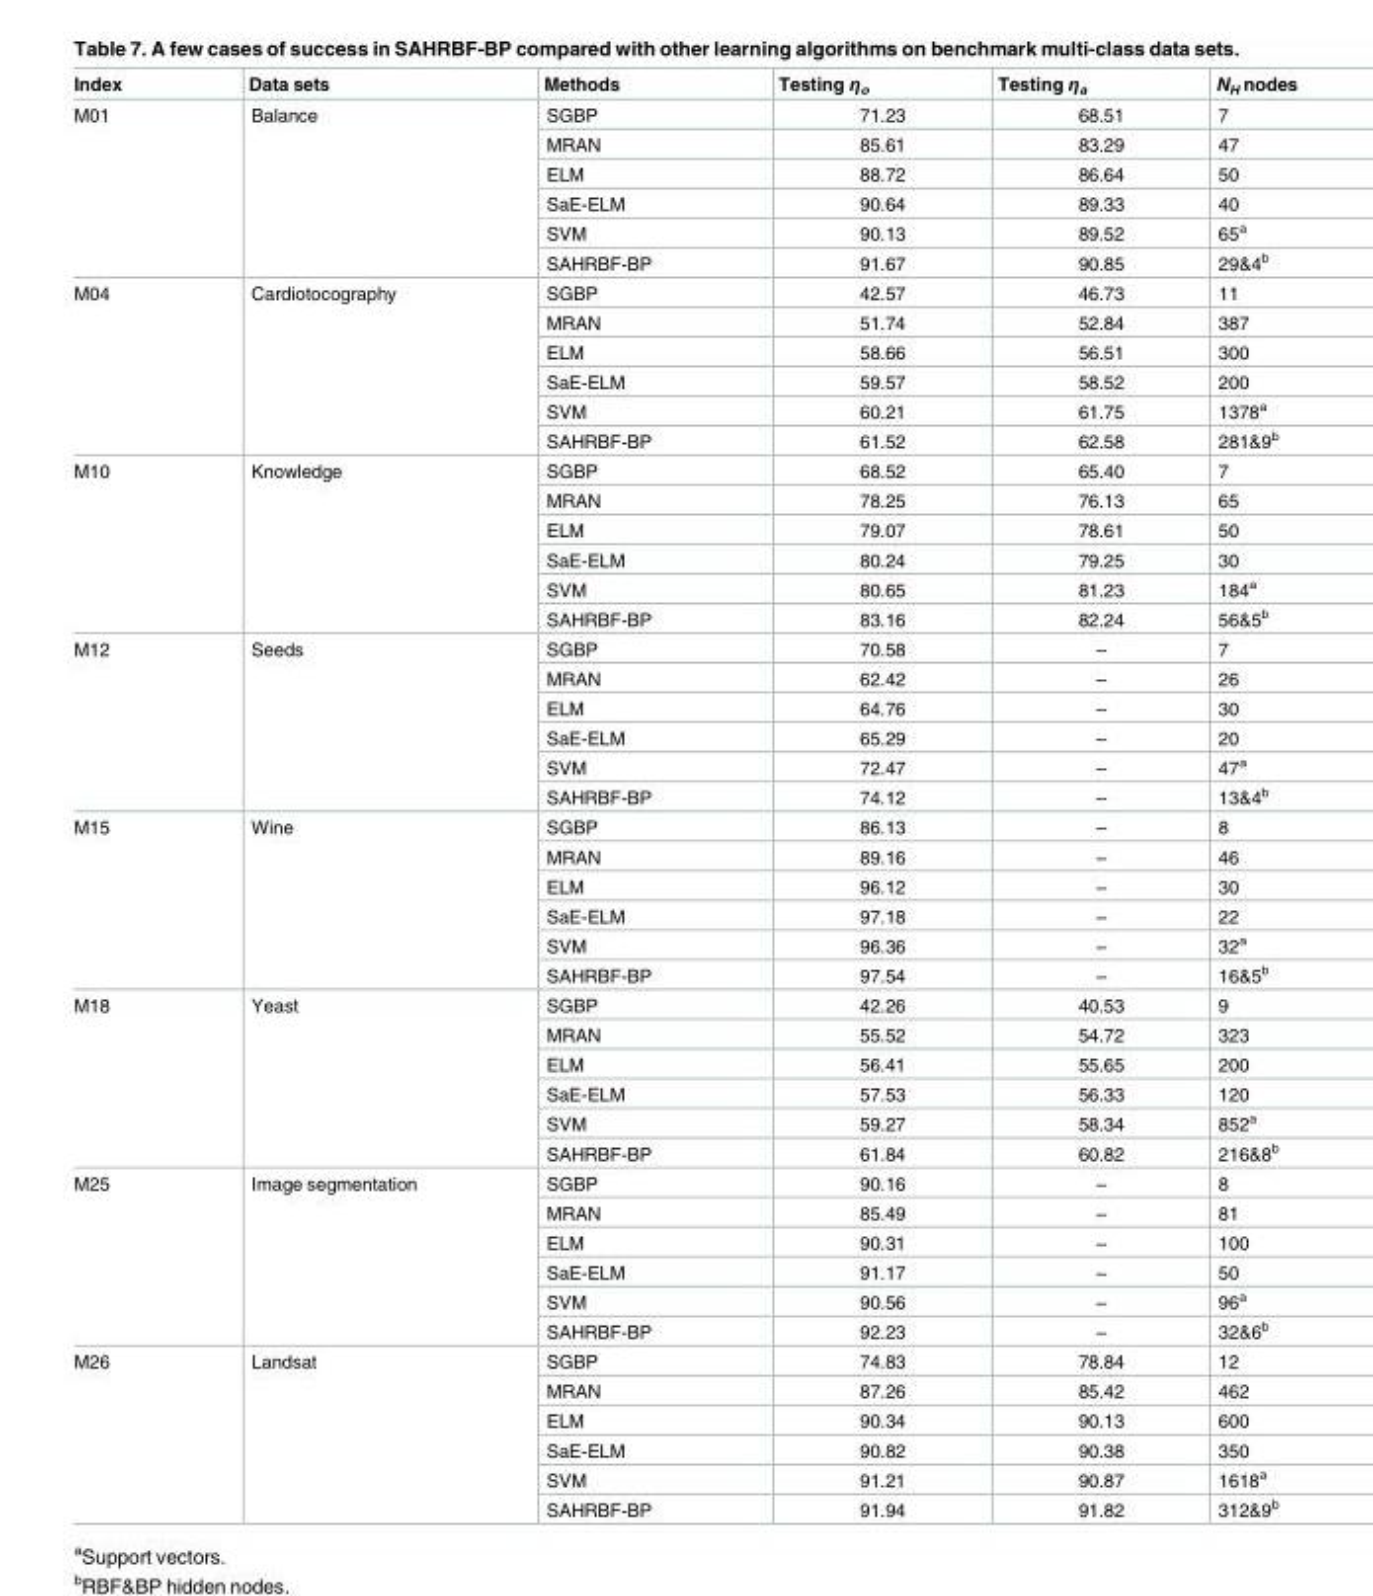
<table><thead><tr><td>Index</td><td>Data sets</td><td>Methods</td><td>Testing η<sub>o</sub></td><td>Testing η<sub>a</sub></td><td>N<sub>H</sub> nodes</td></tr></thead><tbody><tr><td rowspan="6">M01</td><td rowspan="6">Balance</td><td>SGBP</td><td>71.23</td><td>68.51</td><td>7</td></tr><tr><td>MRAN</td><td>85.61</td><td>83.29</td><td>47</td></tr><tr><td>ELM</td><td>88.72</td><td>86.64</td><td>50</td></tr><tr><td>SaE-ELM</td><td>90.64</td><td>89.33</td><td>40</td></tr><tr><td>SVM</td><td>90.13</td><td>89.52</td><td>65<sup>a</sup></td></tr><tr><td>SAHRBF-BP</td><td>91.67</td><td>90.85</td><td>29&amp;4<sup>b</sup></td></tr><tr><td rowspan="6">M04</td><td rowspan="6">Cardiotocography</td><td>SGBP</td><td>42.57</td><td>46.73</td><td>11</td></tr><tr><td>MRAN</td><td>51.74</td><td>52.84</td><td>387</td></tr><tr><td>ELM</td><td>58.66</td><td>56.51</td><td>300</td></tr><tr><td>SaE-ELM</td><td>59.57</td><td>58.52</td><td>200</td></tr><tr><td>SVM</td><td>60.21</td><td>61.75</td><td>1378<sup>a</sup></td></tr><tr><td>SAHRBF-BP</td><td>61.52</td><td>62.58</td><td>281&amp;9<sup>b</sup></td></tr><tr><td rowspan="6">M10</td><td rowspan="6">Knowledge</td><td>SGBP</td><td>68.52</td><td>65.40</td><td>7</td></tr><tr><td>MRAN</td><td>78.25</td><td>76.13</td><td>65</td></tr><tr><td>ELM</td><td>79.07</td><td>78.61</td><td>50</td></tr><tr><td>SaE-ELM</td><td>80.24</td><td>79.25</td><td>30</td></tr><tr><td>SVM</td><td>80.65</td><td>81.23</td><td>184<sup>a</sup></td></tr><tr><td>SAHRBF-BP</td><td>83.16</td><td>82.24</td><td>56&amp;5<sup>b</sup></td></tr><tr><td rowspan="6">M12</td><td rowspan="6">Seeds</td><td>SGBP</td><td>70.58</td><td>–</td><td>7</td></tr><tr><td>MRAN</td><td>62.42</td><td>–</td><td>26</td></tr><tr><td>ELM</td><td>64.76</td><td>–</td><td>30</td></tr><tr><td>SaE-ELM</td><td>65.29</td><td>–</td><td>20</td></tr><tr><td>SVM</td><td>72.47</td><td>–</td><td>47<sup>a</sup></td></tr><tr><td>SAHRBF-BP</td><td>74.12</td><td>–</td><td>13&amp;4<sup>b</sup></td></tr><tr><td rowspan="6">M15</td><td rowspan="6">Wine</td><td>SGBP</td><td>86.13</td><td>–</td><td>8</td></tr><tr><td>MRAN</td><td>89.16</td><td>–</td><td>46</td></tr><tr><td>ELM</td><td>96.12</td><td>–</td><td>30</td></tr><tr><td>SaE-ELM</td><td>97.18</td><td>–</td><td>22</td></tr><tr><td>SVM</td><td>96.36</td><td>–</td><td>32<sup>a</sup></td></tr><tr><td>SAHRBF-BP</td><td>97.54</td><td>–</td><td>16&amp;5<sup>b</sup></td></tr><tr><td rowspan="6">M18</td><td rowspan="6">Yeast</td><td>SGBP</td><td>42.26</td><td>40.53</td><td>9</td></tr><tr><td>MRAN</td><td>55.52</td><td>54.72</td><td>323</td></tr><tr><td>ELM</td><td>56.41</td><td>55.65</td><td>200</td></tr><tr><td>SaE-ELM</td><td>57.53</td><td>56.33</td><td>120</td></tr><tr><td>SVM</td><td>59.27</td><td>58.34</td><td>852<sup>a</sup></td></tr><tr><td>SAHRBF-BP</td><td>61.84</td><td>60.82</td><td>216&amp;8<sup>b</sup></td></tr><tr><td rowspan="6">M25</td><td rowspan="6">Image segmentation</td><td>SGBP</td><td>90.16</td><td>–</td><td>8</td></tr><tr><td>MRAN</td><td>85.49</td><td>–</td><td>81</td></tr><tr><td>ELM</td><td>90.31</td><td>–</td><td>100</td></tr><tr><td>SaE-ELM</td><td>91.17</td><td>–</td><td>50</td></tr><tr><td>SVM</td><td>90.56</td><td>–</td><td>96<sup>a</sup></td></tr><tr><td>SAHRBF-BP</td><td>92.23</td><td>–</td><td>32&amp;6<sup>b</sup></td></tr><tr><td rowspan="6">M26</td><td rowspan="6">Landsat</td><td>SGBP</td><td>74.83</td><td>78.84</td><td>12</td></tr><tr><td>MRAN</td><td>87.26</td><td>85.42</td><td>462</td></tr><tr><td>ELM</td><td>90.34</td><td>90.13</td><td>600</td></tr><tr><td>SaE-ELM</td><td>90.82</td><td>90.38</td><td>350</td></tr><tr><td>SVM</td><td>91.21</td><td>90.87</td><td>1618<sup>a</sup></td></tr><tr><td>SAHRBF-BP</td><td>91.94</td><td>91.82</td><td>312&amp;9<sup>b</sup></td></tr></tbody></table>